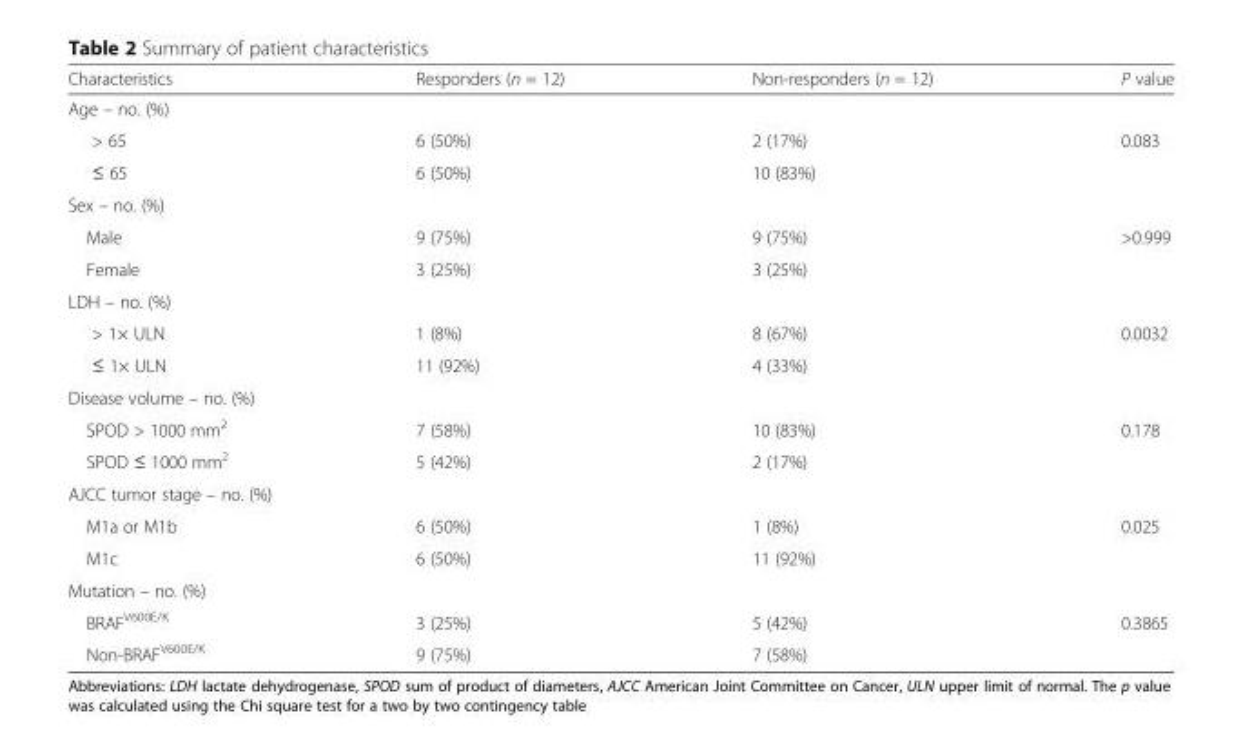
<table><thead><tr><td>Characteristics</td><td>Responders (n = 12)</td><td>Non-responders (n = 12)</td><td>P value</td></tr></thead><tbody><tr><td colspan="4">Age – no. (%)</td></tr><tr><td>&gt; 65</td><td>6 (50%)</td><td>2 (17%)</td><td>0.083</td></tr><tr><td>≤ 65</td><td>6 (50%)</td><td>10 (83%)</td><td></td></tr><tr><td colspan="4">Sex – no. (%)</td></tr><tr><td>Male</td><td>9 (75%)</td><td>9 (75%)</td><td>&gt;0.999</td></tr><tr><td>Female</td><td>3 (25%)</td><td>3 (25%)</td><td></td></tr><tr><td colspan="4">LDH – no. (%)</td></tr><tr><td>&gt; 1× ULN</td><td>1 (8%)</td><td>8 (67%)</td><td>0.0032</td></tr><tr><td>≤ 1× ULN</td><td>11 (92%)</td><td>4 (33%)</td><td></td></tr><tr><td colspan="4">Disease volume – no. (%)</td></tr><tr><td>SPOD &gt; 1000 mm<sup>2</sup></td><td>7 (58%)</td><td>10 (83%)</td><td>0.178</td></tr><tr><td>SPOD ≤ 1000 mm<sup>2</sup></td><td>5 (42%)</td><td>2 (17%)</td><td></td></tr><tr><td colspan="4">AJCC tumor stage – no. (%)</td></tr><tr><td>M1a or M1b</td><td>6 (50%)</td><td>1 (8%)</td><td>0.025</td></tr><tr><td>M1c</td><td>6 (50%)</td><td>11 (92%)</td><td></td></tr><tr><td colspan="4">Mutation – no. (%)</td></tr><tr><td>BRAF<sup>V600E/K</sup></td><td>3 (25%)</td><td>5 (42%)</td><td>0.3865</td></tr><tr><td>Non-BRAF<sup>V600E/K</sup></td><td>9 (75%)</td><td>7 (58%)</td><td></td></tr></tbody></table>